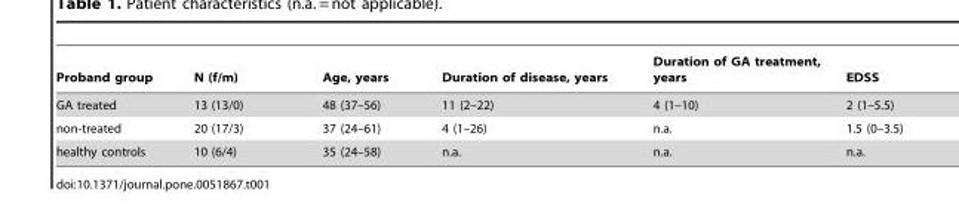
<table><thead><tr><td>Proband group</td><td>N (f/m)</td><td>Age, years</td><td>Duration of disease, years</td><td>Duration of GA treatment, years</td><td>EDSS</td></tr></thead><tbody><tr><td>GA treated</td><td>13 (13/0)</td><td>48 (37–56)</td><td>11 (2–22)</td><td>4 (1–10)</td><td>2 (1–5.5)</td></tr><tr><td>non-treated</td><td>20 (17/3)</td><td>37 (24–61)</td><td>4 (1–26)</td><td>n.a.</td><td>1.5 (0–3.5)</td></tr><tr><td>healthy controls</td><td>10 (6/4)</td><td>35 (24–58)</td><td>n.a.</td><td>n.a.</td><td>n.a.</td></tr></tbody></table>